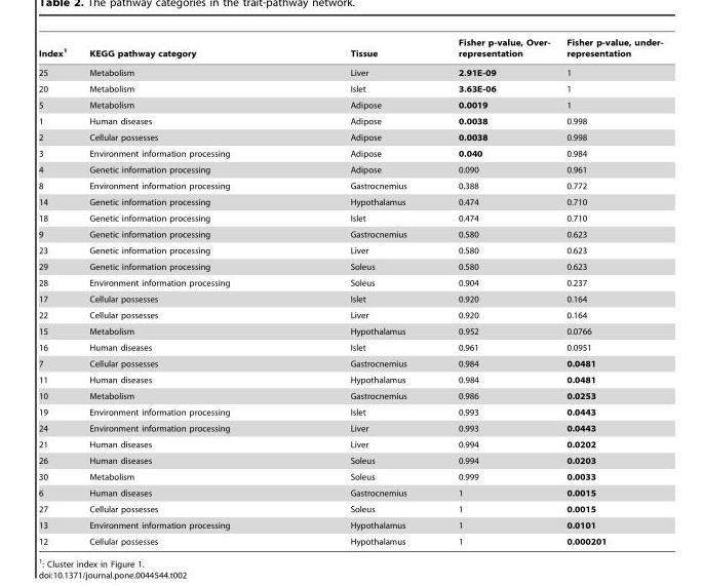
<table><thead><tr><td>Index<sup>1</sup></td><td>KEGG pathway category</td><td>Tissue</td><td>Fisher p-value, Over- representation</td><td>Fisher p-value, under- representation</td></tr></thead><tbody><tr><td>25</td><td>Metabolism</td><td>Liver</td><td>2.91E-09</td><td>1</td></tr><tr><td>20</td><td>Metabolism</td><td>Islet</td><td>3.63E-06</td><td>1</td></tr><tr><td>5</td><td>Metabolism</td><td>Adipose</td><td>0.0019</td><td>1</td></tr><tr><td>1</td><td>Human diseases</td><td>Adipose</td><td>0.0038</td><td>0.998</td></tr><tr><td>2</td><td>Cellular possesses</td><td>Adipose</td><td>0.0038</td><td>0.998</td></tr><tr><td>3</td><td>Environment information processing</td><td>Adipose</td><td>0.040</td><td>0.984</td></tr><tr><td>4</td><td>Genetic information processing</td><td>Adipose</td><td>0.090</td><td>0.961</td></tr><tr><td>8</td><td>Environment information processing</td><td>Gastrocnemius</td><td>0.388</td><td>0.772</td></tr><tr><td>14</td><td>Genetic information processing</td><td>Hypothalamus</td><td>0.474</td><td>0.710</td></tr><tr><td>18</td><td>Genetic information processing</td><td>Islet</td><td>0.474</td><td>0.710</td></tr><tr><td>9</td><td>Genetic information processing</td><td>Gastrocnemius</td><td>0.580</td><td>0.623</td></tr><tr><td>23</td><td>Genetic information processing</td><td>Liver</td><td>0.580</td><td>0.623</td></tr><tr><td>29</td><td>Genetic information processing</td><td>Soleus</td><td>0.580</td><td>0.623</td></tr><tr><td>28</td><td>Environment information processing</td><td>Soleus</td><td>0.904</td><td>0.237</td></tr><tr><td>17</td><td>Cellular possesses</td><td>Islet</td><td>0.920</td><td>0.164</td></tr><tr><td>22</td><td>Cellular possesses</td><td>Liver</td><td>0.920</td><td>0.164</td></tr><tr><td>15</td><td>Metabolism</td><td>Hypothalamus</td><td>0.952</td><td>0.0766</td></tr><tr><td>16</td><td>Human diseases</td><td>Islet</td><td>0.961</td><td>0.0951</td></tr><tr><td>7</td><td>Cellular possesses</td><td>Gastrocnemius</td><td>0.984</td><td>0.0481</td></tr><tr><td>11</td><td>Human diseases</td><td>Hypothalamus</td><td>0.984</td><td>0.0481</td></tr><tr><td>10</td><td>Metabolism</td><td>Gastrocnemius</td><td>0.986</td><td>0.0253</td></tr><tr><td>19</td><td>Environment information processing</td><td>Islet</td><td>0.993</td><td>0.0443</td></tr><tr><td>24</td><td>Environment information processing</td><td>Liver</td><td>0.993</td><td>0.0443</td></tr><tr><td>21</td><td>Human diseases</td><td>Liver</td><td>0.994</td><td>0.0202</td></tr><tr><td>26</td><td>Human diseases</td><td>Soleus</td><td>0.994</td><td>0.0203</td></tr><tr><td>30</td><td>Metabolism</td><td>Soleus</td><td>0.999</td><td>0.0033</td></tr><tr><td>6</td><td>Human diseases</td><td>Gastrocnemius</td><td>1</td><td>0.0015</td></tr><tr><td>27</td><td>Cellular possesses</td><td>Soleus</td><td>1</td><td>0.0015</td></tr><tr><td>13</td><td>Environment information processing</td><td>Hypothalamus</td><td>1</td><td>0.0101</td></tr><tr><td>12</td><td>Cellular possesses</td><td>Hypothalamus</td><td>1</td><td>0.000201</td></tr></tbody></table>